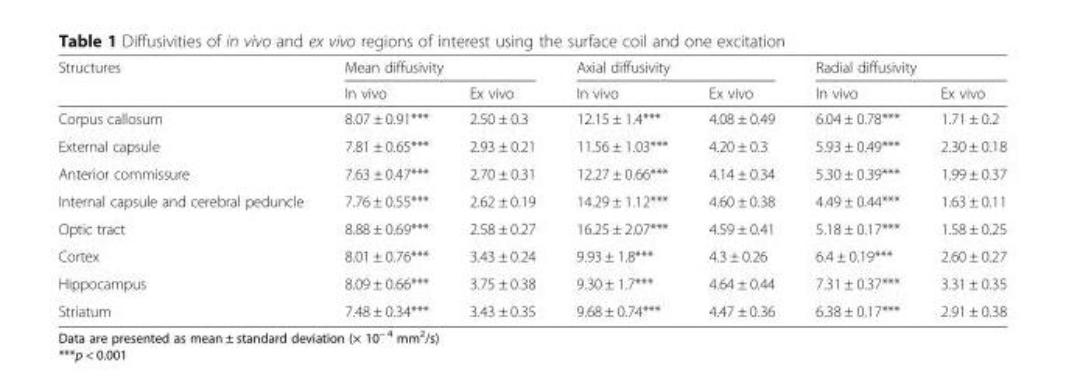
<table><thead><tr><td rowspan="2">Structures</td><td colspan="2">Mean diffusivity</td><td colspan="2">Axial diffusivity</td><td colspan="2">Radial diffusivity</td></tr><tr><td>In vivo</td><td>Ex vivo</td><td>In vivo</td><td>Ex vivo</td><td>In vivo</td><td>Ex vivo</td></tr></thead><tbody><tr><td>Corpus callosum</td><td>8.07 ± 0.91***</td><td>2.50 ± 0.3</td><td>12.15 ± 1.4***</td><td>4.08 ± 0.49</td><td>6.04 ± 0.78***</td><td>1.71 ± 0.2</td></tr><tr><td>External capsule</td><td>7.81 ± 0.65***</td><td>2.93 ± 0.21</td><td>11.56 ± 1.03***</td><td>4.20 ± 0.3</td><td>5.93 ± 0.49***</td><td>2.30 ± 0.18</td></tr><tr><td>Anterior commissure</td><td>7.63 ± 0.47***</td><td>2.70 ± 0.31</td><td>12.27 ± 0.66***</td><td>4.14 ± 0.34</td><td>5.30 ± 0.39***</td><td>1.99 ± 0.37</td></tr><tr><td>Internal capsule and cerebral peduncle</td><td>7.76 ± 0.55***</td><td>2.62 ± 0.19</td><td>14.29 ± 1.12***</td><td>4.60 ± 0.38</td><td>4.49 ± 0.44***</td><td>1.63 ± 0.11</td></tr><tr><td>Optic tract</td><td>8.88 ± 0.69***</td><td>2.58 ± 0.27</td><td>16.25 ± 2.07***</td><td>4.59 ± 0.41</td><td>5.18 ± 0.17***</td><td>1.58 ± 0.25</td></tr><tr><td>Cortex</td><td>8.01 ± 0.76***</td><td>3.43 ± 0.24</td><td>9.93 ± 1.8***</td><td>4.3 ± 0.26</td><td>6.4 ± 0.19***</td><td>2.60 ± 0.27</td></tr><tr><td>Hippocampus</td><td>8.09 ± 0.66***</td><td>3.75 ± 0.38</td><td>9.30 ± 1.7***</td><td>4.64 ± 0.44</td><td>7.31 ± 0.37***</td><td>3.31 ± 0.35</td></tr><tr><td>Striatum</td><td>7.48 ± 0.34***</td><td>3.43 ± 0.35</td><td>9.68 ± 0.74***</td><td>4.47 ± 0.36</td><td>6.38 ± 0.17***</td><td>2.91 ± 0.38</td></tr></tbody></table>